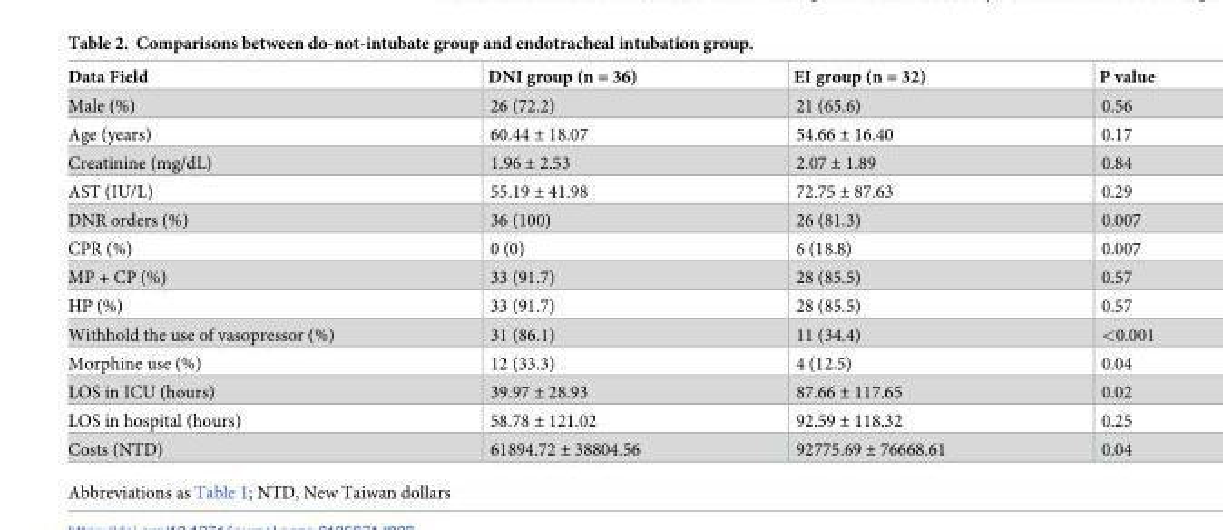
<table><thead><tr><td>Data Field</td><td>DNI group (n = 36)</td><td>EI group (n = 32)</td><td>P value</td></tr></thead><tbody><tr><td>Male (%)</td><td>26 (72.2)</td><td>21 (65.6)</td><td>0.56</td></tr><tr><td>Age (years)</td><td>60.44 ± 18.07</td><td>54.66 ± 16.40</td><td>0.17</td></tr><tr><td>Creatinine (mg/dL)</td><td>1.96 ± 2.53</td><td>2.07 ± 1.89</td><td>0.84</td></tr><tr><td>AST (IU/L)</td><td>55.19 ± 41.98</td><td>72.75 ± 87.63</td><td>0.29</td></tr><tr><td>DNR orders (%)</td><td>36 (100)</td><td>26 (81.3)</td><td>0.007</td></tr><tr><td>CPR (%)</td><td>0 (0)</td><td>6 (18.8)</td><td>0.007</td></tr><tr><td>MP + CP (%)</td><td>33 (91.7)</td><td>28 (85.5)</td><td>0.57</td></tr><tr><td>HP (%)</td><td>33 (91.7)</td><td>28 (85.5)</td><td>0.57</td></tr><tr><td>Withhold the use of vasopressor (%)</td><td>31 (86.1)</td><td>11 (34.4)</td><td>&lt;0.001</td></tr><tr><td>Morphine use (%)</td><td>12 (33.3)</td><td>4 (12.5)</td><td>0.04</td></tr><tr><td>LOS in ICU (hours)</td><td>39.97 ± 28.93</td><td>87.66 ± 117.65</td><td>0.02</td></tr><tr><td>LOS in hospital (hours)</td><td>58.78 ± 121.02</td><td>92.59 ± 118.32</td><td>0.25</td></tr><tr><td>Costs (NTD)</td><td>61894.72 ± 38804.56</td><td>92775.69 ± 76668.61</td><td>0.04</td></tr></tbody></table>